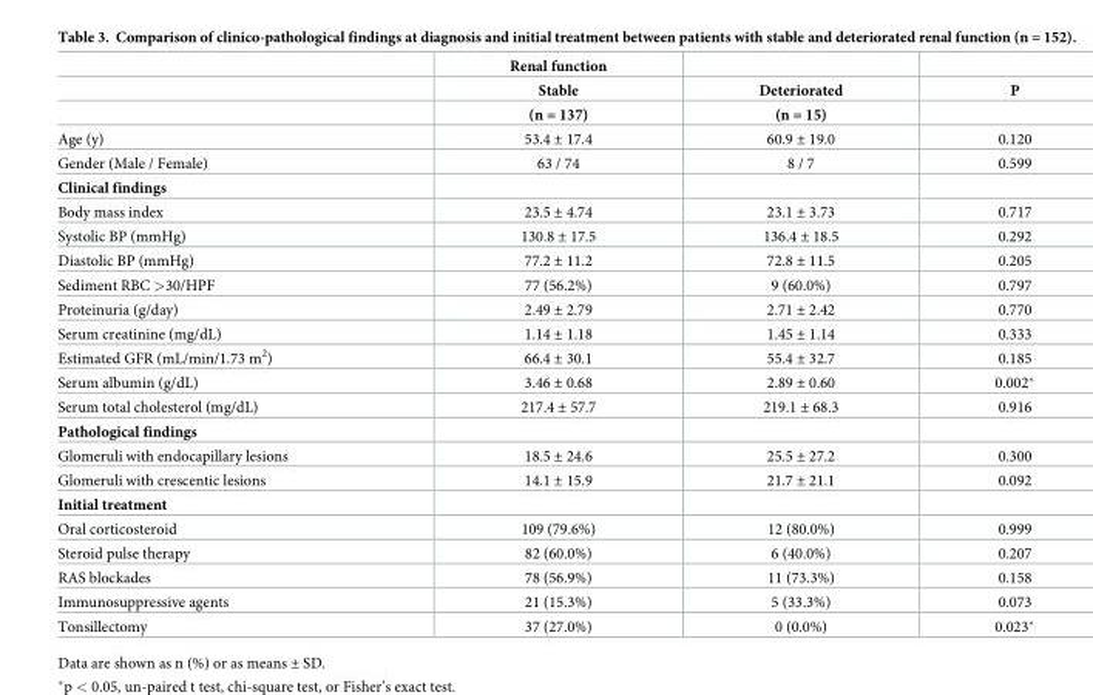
<table><thead><tr><td rowspan="3"></td><td rowspan="3">Renal function Stable (n = 137)</td><td rowspan="3">Deteriorated (n = 15)</td><td rowspan="3">P</td></tr><tr></tr><tr></tr></thead><tbody><tr><td>Age (y)</td><td>53.4 ± 17.4</td><td>60.9 ± 19.0</td><td>0.120</td></tr><tr><td>Gender (Male / Female)</td><td>63 / 74</td><td>8 / 7</td><td>0.599</td></tr><tr><td colspan="4">Clinical findings</td></tr><tr><td>Body mass index</td><td>23.5 ± 4.74</td><td>23.1 ± 3.73</td><td>0.717</td></tr><tr><td>Systolic BP (mmHg)</td><td>130.8 ± 17.5</td><td>136.4 ± 18.5</td><td>0.292</td></tr><tr><td>Diastolic BP (mmHg)</td><td>77.2 ± 11.2</td><td>72.8 ± 11.5</td><td>0.205</td></tr><tr><td>Sediment RBC &gt;30/HPF</td><td>77 (56.2%)</td><td>9 (60.0%)</td><td>0.797</td></tr><tr><td>Proteinuria (g/day)</td><td>2.49 ± 2.79</td><td>2.71 ± 2.42</td><td>0.770</td></tr><tr><td>Serum creatinine (mg/dL)</td><td>1.14 ± 1.18</td><td>1.45 ± 1.14</td><td>0.333</td></tr><tr><td>Estimated GFR (mL/min/1.73 m<sup>2</sup>)</td><td>66.4 ± 30.1</td><td>55.4 ± 32.7</td><td>0.185</td></tr><tr><td>Serum albumin (g/dL)</td><td>3.46 ± 0.68</td><td>2.89 ± 0.60</td><td>0.002*</td></tr><tr><td>Serum total cholesterol (mg/dL)</td><td>217.4 ± 57.7</td><td>219.1 ± 68.3</td><td>0.916</td></tr><tr><td colspan="4">Pathological findings</td></tr><tr><td>Glomeruli with endocapillary lesions</td><td>18.5 ± 24.6</td><td>25.5 ± 27.2</td><td>0.300</td></tr><tr><td>Glomeruli with crescentic lesions</td><td>14.1 ± 15.9</td><td>21.7 ± 21.1</td><td>0.092</td></tr><tr><td colspan="4">Initial treatment</td></tr><tr><td>Oral corticosteroid</td><td>109 (79.6%)</td><td>12 (80.0%)</td><td>0.999</td></tr><tr><td>Steroid pulse therapy</td><td>82 (60.0%)</td><td>6 (40.0%)</td><td>0.207</td></tr><tr><td>RAS blockades</td><td>78 (56.9%)</td><td>11 (73.3%)</td><td>0.158</td></tr><tr><td>Immunosuppressive agents</td><td>21 (15.3%)</td><td>5 (33.3%)</td><td>0.073</td></tr><tr><td>Tonsillectomy</td><td>37 (27.0%)</td><td>0 (0.0%)</td><td>0.023*</td></tr></tbody></table>